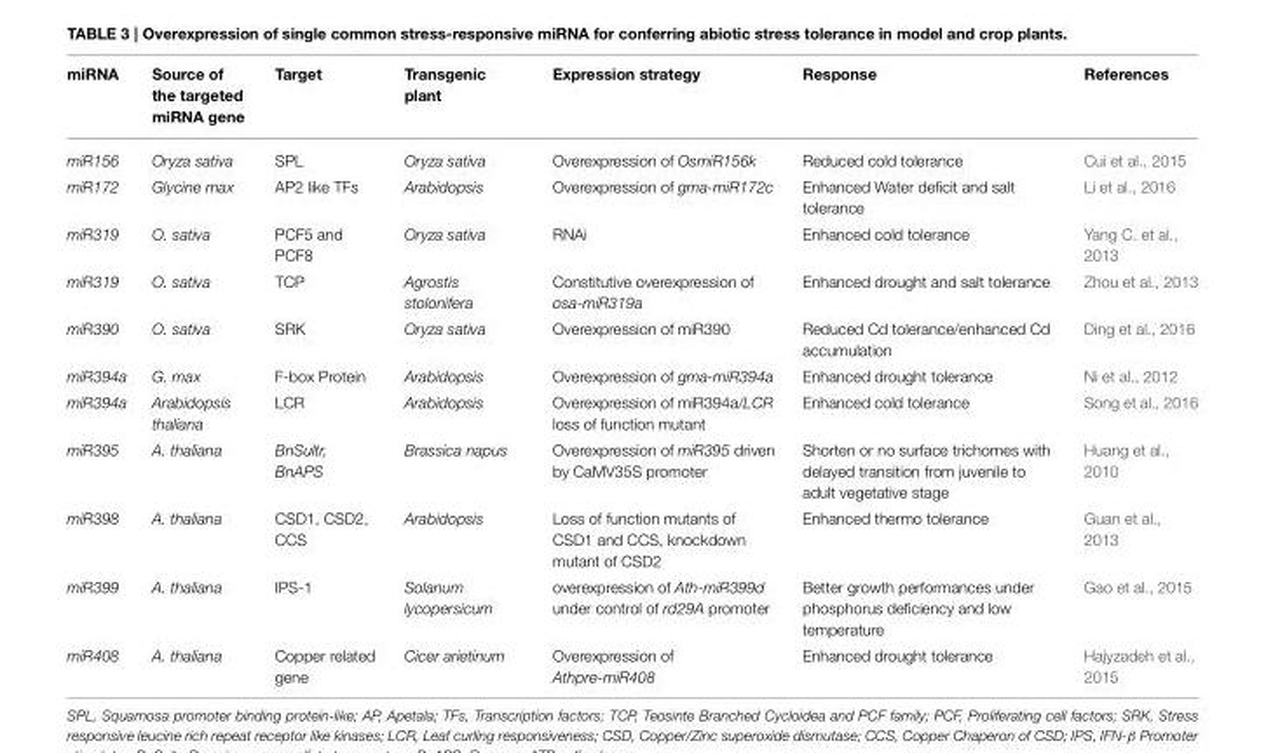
<table><thead><tr><td>miRNA</td><td>Source of the targeted miRNA gene</td><td>Target</td><td>Transgenic plant</td><td>Expression strategy</td><td>Response</td><td>References</td></tr></thead><tbody><tr><td>miR156</td><td>Oryza sativa</td><td>SPL</td><td>Oryza sativa</td><td>Overexpression of OsmiR156k</td><td>Reduced cold tolerance</td><td>Cui et al., 2015</td></tr><tr><td>miR172</td><td>Glycine max</td><td>AP2 like TFs</td><td>Arabidopsis</td><td>Overexpression of gma-miR172c</td><td>Enhanced Water deficit and salt tolerance</td><td>Li et al., 2016</td></tr><tr><td>miR319</td><td>O. sativa</td><td>PCF5 and PCF8</td><td>Oryza sativa</td><td>RNAi</td><td>Enhanced cold tolerance</td><td>Yang C. et al., 2013</td></tr><tr><td>miR319</td><td>O. sativa</td><td>TCP</td><td>Agrostis stolonifera</td><td>Constitutive overexpression of osa-miR319a</td><td>Enhanced drought and salt tolerance</td><td>Zhou et al., 2013</td></tr><tr><td>miR390</td><td>O. sativa</td><td>SRK</td><td>Oryza sativa</td><td>Overexpression of miR390</td><td>Reduced Cd tolerance/enhanced Cd accumulation</td><td>Ding et al., 2016</td></tr><tr><td>miR394a</td><td>G. max</td><td>F-box Protein</td><td>Arabidopsis</td><td>Overexpression of gma-miR394a</td><td>Enhanced drought tolerance</td><td>Ni et al., 2012</td></tr><tr><td>miR394a</td><td>Arabidopsis thaliana</td><td>LCR</td><td>Arabidopsis</td><td>Overexpression of miR394a/LCR loss of function mutant</td><td>Enhanced cold tolerance</td><td>Song et al., 2016</td></tr><tr><td>miR395</td><td>A. thaliana</td><td>BnSultr, BnAPS</td><td>Brassica napus</td><td>Overexpression of miR395 driven by CaMV35S promoter</td><td>Shorten or no surface trichomes with delayed transition from juvenile to adult vegetative stage</td><td>Huang et al., 2010</td></tr><tr><td>miR398</td><td>A. thaliana</td><td>CSD1, CSD2, CCS</td><td>Arabidopsis</td><td>Loss of function mutants of CSD1 and CCS, knockdown mutant of CSD2</td><td>Enhanced thermo tolerance</td><td>Guan et al., 2013</td></tr><tr><td>miR399</td><td>A. thaliana</td><td>IPS-1</td><td>Solanum lycopersicum</td><td>overexpression of Ath-miR399d under control of rd29A promoter</td><td>Better growth performances under phosphorus deficiency and low temperature</td><td>Gao et al., 2015</td></tr><tr><td>miR408</td><td>A. thaliana</td><td>Copper related gene</td><td>Cicer arietinum</td><td>Overexpression of Athpre-miR408</td><td>Enhanced drought tolerance</td><td>Hajyzadeh et al., 2015</td></tr></tbody></table>